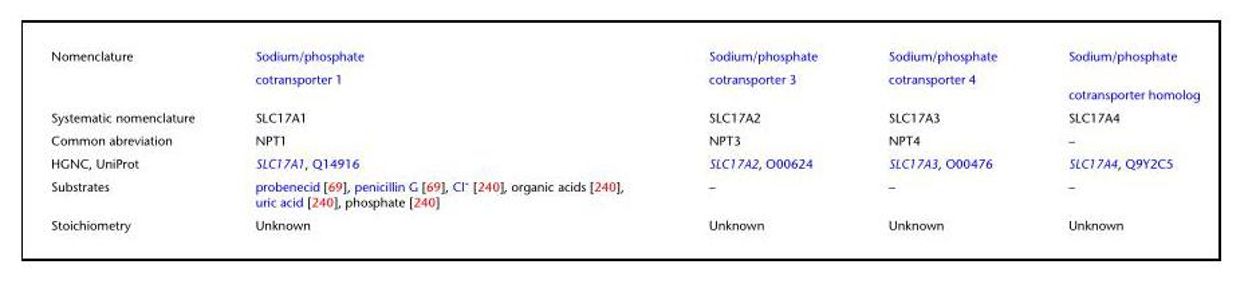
<table><tbody><tr><td rowspan="2">Nomenclature</td><td>Sodium/phosphate</td><td>Sodium/phosphate</td><td>Sodium/phosphate</td><td>Sodium/phosphate</td></tr><tr><td>cotransporter 1</td><td>cotransporter 3</td><td>cotransporter 4</td><td>cotransporter homolog</td></tr><tr><td>Systematic nomenclature</td><td>SLC17A1</td><td>SLC17A2</td><td>SLC17A3</td><td>SLC17A4</td></tr><tr><td>Common abreviation</td><td>NPT1</td><td>NPT3</td><td>NPT4</td><td>–</td></tr><tr><td>HGNC, UniProt</td><td>SLC17A1, Q14916</td><td>SLC17A2, O00624</td><td>SLC17A3, O00476</td><td>SLC17A4, Q9Y2C5</td></tr><tr><td>Substrates</td><td>probenecid [69], penicillin G [69], Cl<sup>-</sup> [240], organic acids [240], uric acid [240], phosphate [240]</td><td>–</td><td>–</td><td>–</td></tr><tr><td>Stoichiometry</td><td>Unknown</td><td>Unknown</td><td>Unknown</td><td>Unknown</td></tr></tbody></table>